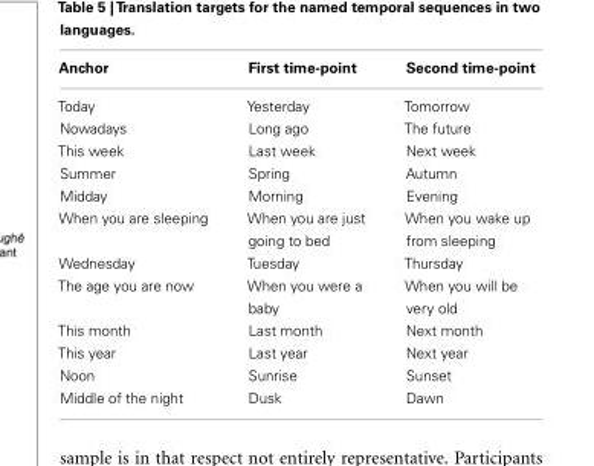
<table><thead><tr><td>Anchor</td><td>First time-point</td><td>Second time-point</td></tr></thead><tbody><tr><td>Today</td><td>Yesterday</td><td>Tomorrow</td></tr><tr><td>Nowadays</td><td>Long ago</td><td>The future</td></tr><tr><td>This week</td><td>Last week</td><td>Next week</td></tr><tr><td>Summer</td><td>Spring</td><td>Autumn</td></tr><tr><td>Midday</td><td>Morning</td><td>Evening</td></tr><tr><td>When you are sleeping</td><td>When you are just going to bed</td><td>When you wake up from sleeping</td></tr><tr><td>Wednesday</td><td>Tuesday</td><td>Thursday</td></tr><tr><td>The age you are now</td><td>When you were a baby</td><td>When you will be very old</td></tr><tr><td>This month</td><td>Last month</td><td>Next month</td></tr><tr><td>This year</td><td>Last year</td><td>Next year</td></tr><tr><td>Noon</td><td>Sunrise</td><td>Sunset</td></tr><tr><td>Middle of the night</td><td>Dusk</td><td>Dawn</td></tr></tbody></table>